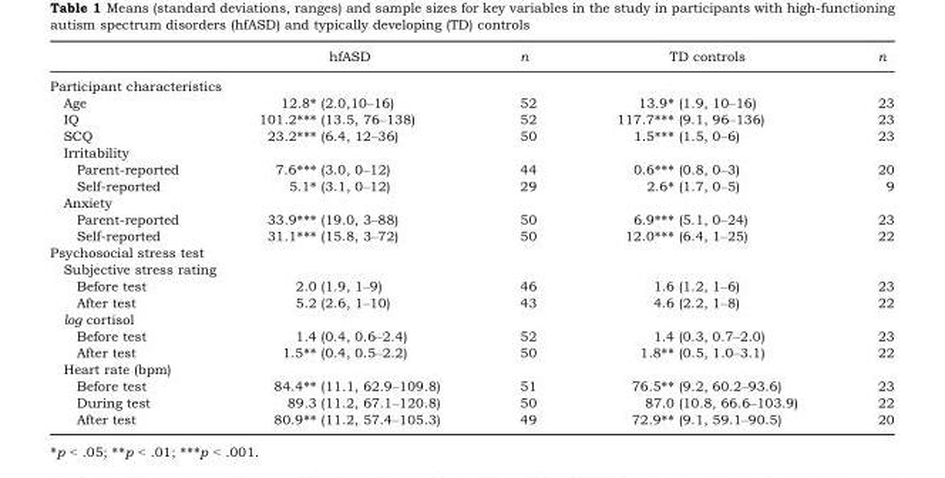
<table><thead><tr><td></td><td>hfASD</td><td>n</td><td>TD controls</td><td>n</td></tr></thead><tbody><tr><td colspan="5">Participant characteristics</td></tr><tr><td>Age</td><td>12.8* (2.0,10–16)</td><td>52</td><td>13.9* (1.9, 10–16)</td><td>23</td></tr><tr><td>IQ</td><td>101.2*** (13.5, 76–138)</td><td>52</td><td>117.7*** (9.1, 96–136)</td><td>23</td></tr><tr><td>SCQ</td><td>23.2*** (6.4, 12–36)</td><td>50</td><td>1.5*** (1.5, 0–6)</td><td>23</td></tr><tr><td colspan="5">Irritability</td></tr><tr><td>Parent-reported</td><td>7.6*** (3.0, 0–12)</td><td>44</td><td>0.6*** (0.8, 0–3)</td><td>20</td></tr><tr><td>Self-reported</td><td>5.1* (3.1, 0–12)</td><td>29</td><td>2.6* (1.7, 0–5)</td><td>9</td></tr><tr><td colspan="5">Anxiety</td></tr><tr><td>Parent-reported</td><td>33.9*** (19.0, 3–88)</td><td>50</td><td>6.9*** (5.1, 0–24)</td><td>23</td></tr><tr><td>Self-reported</td><td>31.1*** (15.8, 3–72)</td><td>50</td><td>12.0*** (6.4, 1–25)</td><td>22</td></tr><tr><td colspan="5">Psychosocial stress test</td></tr><tr><td colspan="5">Subjective stress rating</td></tr><tr><td>Before test</td><td>2.0 (1.9, 1–9)</td><td>46</td><td>1.6 (1.2, 1–6)</td><td>23</td></tr><tr><td>After test</td><td>5.2 (2.6, 1–10)</td><td>43</td><td>4.6 (2.2, 1–8)</td><td>22</td></tr><tr><td colspan="5">log cortisol</td></tr><tr><td>Before test</td><td>1.4 (0.4, 0.6–2.4)</td><td>52</td><td>1.4 (0.3, 0.7–2.0)</td><td>23</td></tr><tr><td>After test</td><td>1.5** (0.4, 0.5–2.2)</td><td>50</td><td>1.8** (0.5, 1.0–3.1)</td><td>22</td></tr><tr><td colspan="5">Heart rate (bpm)</td></tr><tr><td>Before test</td><td>84.4** (11.1, 62.9–109.8)</td><td>51</td><td>76.5** (9.2, 60.2–93.6)</td><td>23</td></tr><tr><td>During test</td><td>89.3 (11.2, 67.1–120.8)</td><td>50</td><td>87.0 (10.8, 66.6–103.9)</td><td>22</td></tr><tr><td>After test</td><td>80.9** (11.2, 57.4–105.3)</td><td>49</td><td>72.9** (9.1, 59.1–90.5)</td><td>20</td></tr></tbody></table>